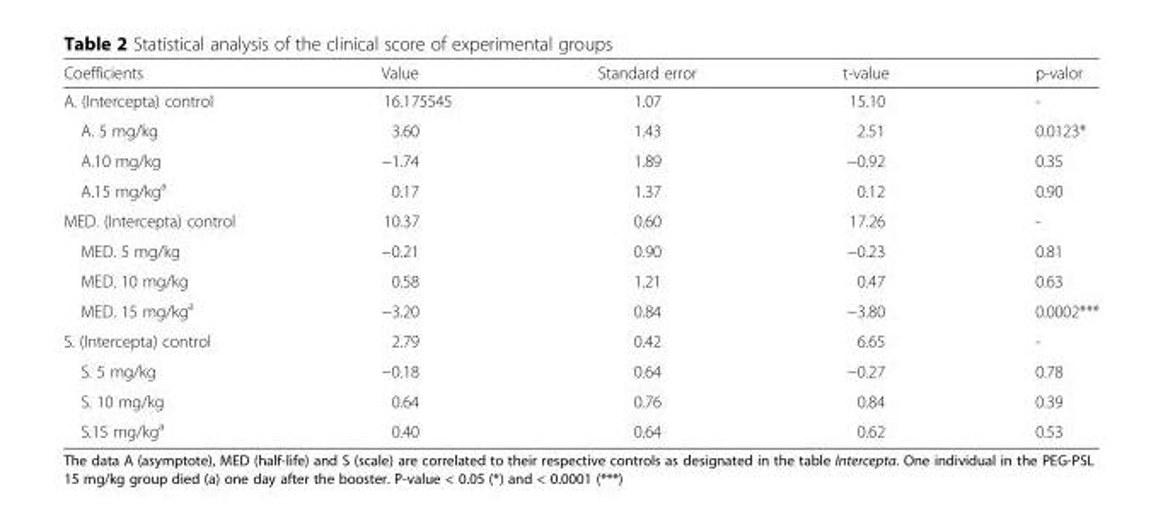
<table><thead><tr><td>Coefficients</td><td>Value</td><td>Standard error</td><td>t-value</td><td>p-valor</td></tr></thead><tbody><tr><td>A. (Intercepta) control</td><td>16.175545</td><td>1.07</td><td>15.10</td><td>-</td></tr><tr><td>A. 5 mg/kg</td><td>3.60</td><td>1.43</td><td>2.51</td><td>0.0123*</td></tr><tr><td>A.10 mg/kg</td><td>−1.74</td><td>1.89</td><td>−0.92</td><td>0.35</td></tr><tr><td>A.15 mg/kg<sup>a</sup></td><td>0.17</td><td>1.37</td><td>0.12</td><td>0.90</td></tr><tr><td>MED. (Intercepta) control</td><td>10.37</td><td>0.60</td><td>17.26</td><td>-</td></tr><tr><td>MED. 5 mg/kg</td><td>−0.21</td><td>0.90</td><td>−0.23</td><td>0.81</td></tr><tr><td>MED. 10 mg/kg</td><td>0.58</td><td>1.21</td><td>0.47</td><td>0.63</td></tr><tr><td>MED. 15 mg/kg<sup>a</sup></td><td>−3.20</td><td>0.84</td><td>−3.80</td><td>0.0002***</td></tr><tr><td>S. (Intercepta) control</td><td>2.79</td><td>0.42</td><td>6.65</td><td>-</td></tr><tr><td>S. 5 mg/kg</td><td>−0.18</td><td>0.64</td><td>−0.27</td><td>0.78</td></tr><tr><td>S. 10 mg/kg</td><td>0.64</td><td>0.76</td><td>0.84</td><td>0.39</td></tr><tr><td>S.15 mg/kg<sup>a</sup></td><td>0.40</td><td>0.64</td><td>0.62</td><td>0.53</td></tr></tbody></table>